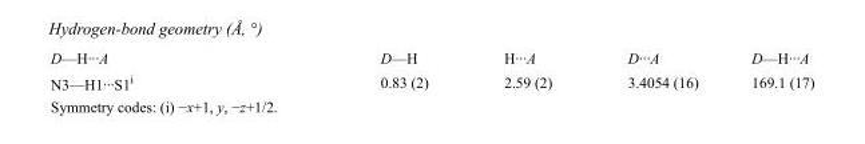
<table><tbody><tr><td>D—H···A</td><td>D—H</td><td>H···A</td><td>D···A</td><td>D—H···A</td></tr><tr><td>N3—H1···S1<sup>i</sup></td><td>0.83 (2)</td><td>2.59 (2)</td><td>3.4054 (16)</td><td>169.1 (17)</td></tr></tbody></table>